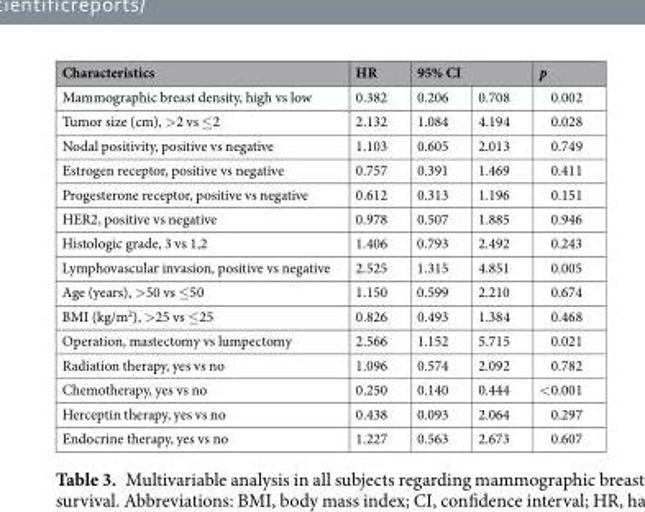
<table><thead><tr><td rowspan="2">Characteristics Mammographic breast density, high vs low</td><td rowspan="2">HR 0.382</td><td colspan="2">95% CI</td><td rowspan="2">p 0.002</td></tr><tr><td>0.206</td><td>0.708</td></tr></thead><tbody><tr><td>Tumor size (cm), &gt;2 vs ≤2</td><td>2.132</td><td>1.084</td><td>4.194</td><td>0.028</td></tr><tr><td>Nodal positivity, positive vs negative</td><td>1.103</td><td>0.605</td><td>2.013</td><td>0.749</td></tr><tr><td>Estrogen receptor, positive vs negative</td><td>0.757</td><td>0.391</td><td>1.469</td><td>0.411</td></tr><tr><td>Progesterone receptor, positive vs negative</td><td>0.612</td><td>0.313</td><td>1.196</td><td>0.151</td></tr><tr><td>HER2, positive vs negative</td><td>0.978</td><td>0.507</td><td>1.885</td><td>0.946</td></tr><tr><td>Histologic grade, 3 vs 1,2</td><td>1.406</td><td>0.793</td><td>2.492</td><td>0.243</td></tr><tr><td>Lymphovascular invasion, positive vs negative</td><td>2.525</td><td>1.315</td><td>4.851</td><td>0.005</td></tr><tr><td>Age (years), &gt;50 vs ≤50</td><td>1.150</td><td>0.599</td><td>2.210</td><td>0.674</td></tr><tr><td>BMI (kg/m<sup>2</sup>), &gt;25 vs ≤25</td><td>0.826</td><td>0.493</td><td>1.384</td><td>0.468</td></tr><tr><td>Operation, mastectomy vs lumpectomy</td><td>2.566</td><td>1.152</td><td>5.715</td><td>0.021</td></tr><tr><td>Radiation therapy, yes vs no</td><td>1.096</td><td>0.574</td><td>2.092</td><td>0.782</td></tr><tr><td>Chemotherapy, yes vs no</td><td>0.250</td><td>0.140</td><td>0.444</td><td>&lt;0.001</td></tr><tr><td>Herceptin therapy, yes vs no</td><td>0.438</td><td>0.093</td><td>2.064</td><td>0.297</td></tr><tr><td>Endocrine therapy, yes vs no</td><td>1.227</td><td>0.563</td><td>2.673</td><td>0.607</td></tr></tbody></table>